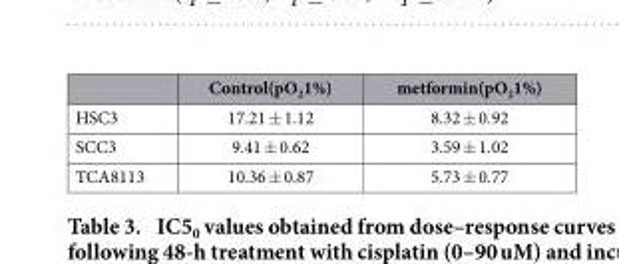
<table><thead><tr><td></td><td>Control(pO<sub>2</sub>1%)</td><td>metformin(pO<sub>2</sub>1%)</td></tr></thead><tbody><tr><td>HSC3</td><td>17.21 ± 1.12</td><td>8.32 ± 0.92</td></tr><tr><td>SCC3</td><td>9.41 ± 0.62</td><td>3.59 ± 1.02</td></tr><tr><td>TCA8113</td><td>10.36 ± 0.87</td><td>5.73 ± 0.77</td></tr></tbody></table>